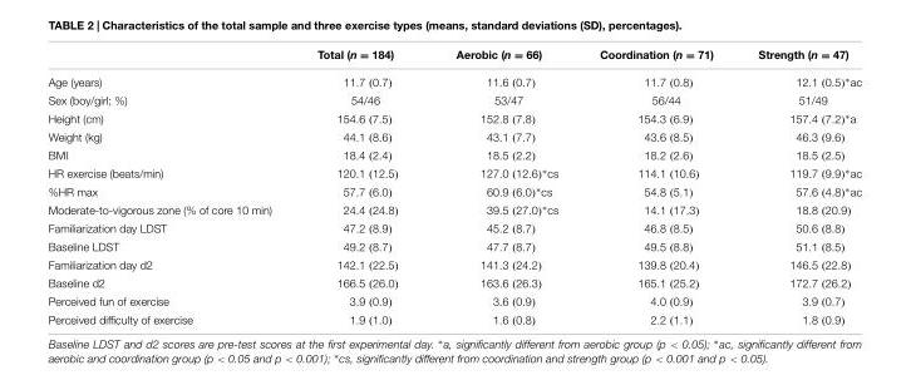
<table><thead><tr><td></td><td>Total (n = 184)</td><td>Aerobic (n = 66)</td><td>Coordination (n = 71)</td><td>Strength (n = 47)</td></tr></thead><tbody><tr><td>Age (years)</td><td>11.7 (0.7)</td><td>11.6 (0.7)</td><td>11.7 (0.8)</td><td>12.1 (0.5)∗ac</td></tr><tr><td>Sex (boy/girl; %)</td><td>54/46</td><td>53/47</td><td>56/44</td><td>51/49</td></tr><tr><td>Height (cm)</td><td>154.6 (7.5)</td><td>152.8 (7.8)</td><td>154.3 (6.9)</td><td>157.4 (7.2)∗a</td></tr><tr><td>Weight (kg)</td><td>44.1 (8.6)</td><td>43.1 (7.7)</td><td>43.6 (8.5)</td><td>46.3 (9.6)</td></tr><tr><td>BMI</td><td>18.4 (2.4)</td><td>18.5 (2.2)</td><td>18.2 (2.6)</td><td>18.5 (2.5)</td></tr><tr><td>HR exercise (beats/min)</td><td>120.1 (12.5)</td><td>127.0 (12.6)∗cs</td><td>114.1 (10.6)</td><td>119.7 (9.9)∗ac</td></tr><tr><td>%HR max</td><td>57.7 (6.0)</td><td>60.9 (6.0)∗cs</td><td>54.8 (5.1)</td><td>57.6 (4.8)∗ac</td></tr><tr><td>Moderate-to-vigorous zone (% of core 10 min)</td><td>24.4 (24.8)</td><td>39.5 (27.0)∗cs</td><td>14.1 (17.3)</td><td>18.8 (20.9)</td></tr><tr><td>Familiarization day LDST</td><td>47.2 (8.9)</td><td>45.2 (8.7)</td><td>46.8 (8.5)</td><td>50.6 (8.8)</td></tr><tr><td>Baseline LDST</td><td>49.2 (8.7)</td><td>47.7 (8.7)</td><td>49.5 (8.8)</td><td>51.1 (8.5)</td></tr><tr><td>Familiarization day d2</td><td>142.1 (22.5)</td><td>141.3 (24.2)</td><td>139.8 (20.4)</td><td>146.5 (22.8)</td></tr><tr><td>Baseline d2</td><td>166.5 (26.0)</td><td>163.6 (26.3)</td><td>165.1 (25.2)</td><td>172.7 (26.2)</td></tr><tr><td>Perceived fun of exercise</td><td>3.9 (0.9)</td><td>3.6 (0.9)</td><td>4.0 (0.9)</td><td>3.9 (0.7)</td></tr><tr><td>Perceived difficulty of exercise</td><td>1.9 (1.0)</td><td>1.6 (0.8)</td><td>2.2 (1.1)</td><td>1.8 (0.9)</td></tr></tbody></table>